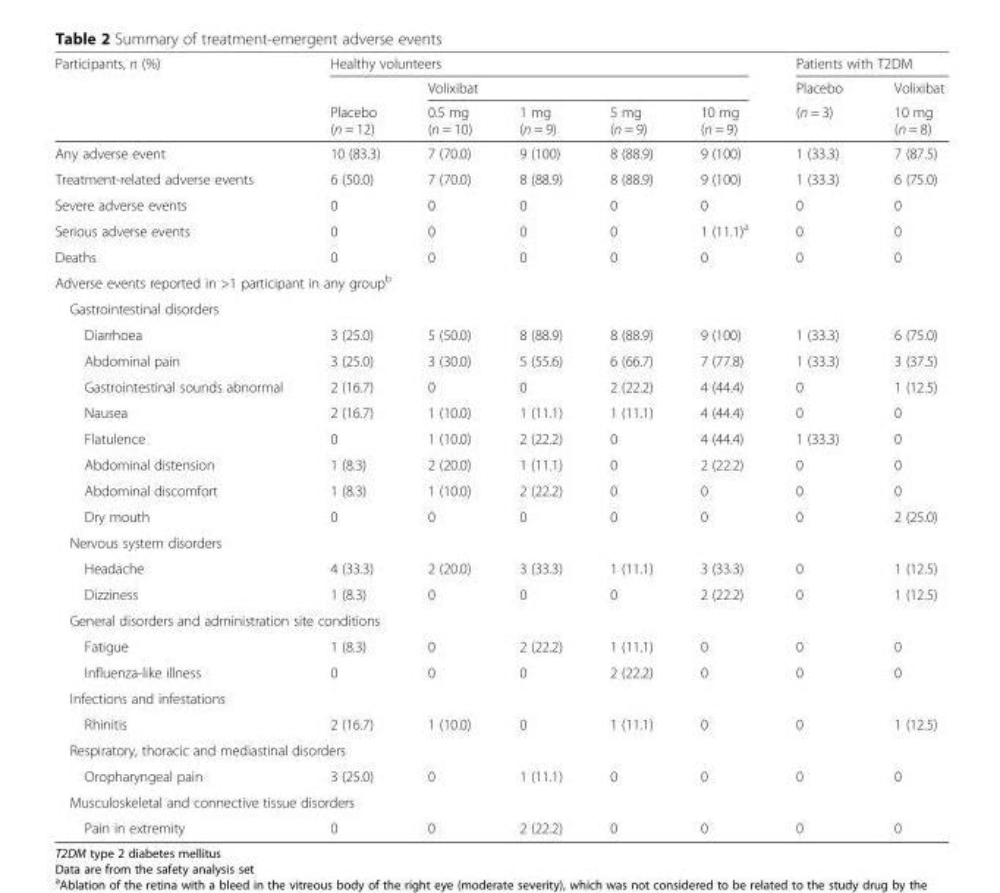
<table><thead><tr><td rowspan="3">Participants, n (%)</td><td colspan="5">Healthy volunteers</td><td colspan="2">Patients with T2DM</td></tr><tr><td rowspan="2">Placebo (n = 12)</td><td colspan="4">Volixibat</td><td rowspan="2">Placebo (n = 3)</td><td rowspan="2">Volixibat 10 mg (n = 8)</td></tr><tr><td>0.5 mg (n = 10)</td><td>1 mg (n = 9)</td><td>5 mg (n = 9)</td><td>10 mg (n = 9)</td></tr></thead><tbody><tr><td>Any adverse event</td><td>10 (83.3)</td><td>7 (70.0)</td><td>9 (100)</td><td>8 (88.9)</td><td>9 (100)</td><td>1 (33.3)</td><td>7 (87.5)</td></tr><tr><td>Treatment-related adverse events</td><td>6 (50.0)</td><td>7 (70.0)</td><td>8 (88.9)</td><td>8 (88.9)</td><td>9 (100)</td><td>1 (33.3)</td><td>6 (75.0)</td></tr><tr><td>Severe adverse events</td><td>0</td><td>0</td><td>0</td><td>0</td><td>0</td><td>0</td><td>0</td></tr><tr><td>Serious adverse events</td><td>0</td><td>0</td><td>0</td><td>0</td><td>1 (11.1)<sup>a</sup></td><td>0</td><td>0</td></tr><tr><td>Deaths</td><td>0</td><td>0</td><td>0</td><td>0</td><td>0</td><td>0</td><td>0</td></tr><tr><td colspan="8">Adverse events reported in &gt;1 participant in any group<sup>b</sup></td></tr><tr><td colspan="8">Gastrointestinal disorders</td></tr><tr><td>Diarrhoea</td><td>3 (25.0)</td><td>5 (50.0)</td><td>8 (88.9)</td><td>8 (88.9)</td><td>9 (100)</td><td>1 (33.3)</td><td>6 (75.0)</td></tr><tr><td>Abdominal pain</td><td>3 (25.0)</td><td>3 (30.0)</td><td>5 (55.6)</td><td>6 (66.7)</td><td>7 (77.8)</td><td>1 (33.3)</td><td>3 (37.5)</td></tr><tr><td>Gastrointestinal sounds abnormal</td><td>2 (16.7)</td><td>0</td><td>0</td><td>2 (22.2)</td><td>4 (44.4)</td><td>0</td><td>1 (12.5)</td></tr><tr><td>Nausea</td><td>2 (16.7)</td><td>1 (10.0)</td><td>1 (11.1)</td><td>1 (11.1)</td><td>4 (44.4)</td><td>0</td><td>0</td></tr><tr><td>Flatulence</td><td>0</td><td>1 (10.0)</td><td>2 (22.2)</td><td>0</td><td>4 (44.4)</td><td>1 (33.3)</td><td>0</td></tr><tr><td>Abdominal distension</td><td>1 (8.3)</td><td>2 (20.0)</td><td>1 (11.1)</td><td>0</td><td>2 (22.2)</td><td>0</td><td>0</td></tr><tr><td>Abdominal discomfort</td><td>1 (8.3)</td><td>1 (10.0)</td><td>2 (22.2)</td><td>0</td><td>0</td><td>0</td><td>0</td></tr><tr><td>Dry mouth</td><td>0</td><td>0</td><td>0</td><td>0</td><td>0</td><td>0</td><td>2 (25.0)</td></tr><tr><td colspan="8">Nervous system disorders</td></tr><tr><td>Headache</td><td>4 (33.3)</td><td>2 (20.0)</td><td>3 (33.3)</td><td>1 (11.1)</td><td>3 (33.3)</td><td>0</td><td>1 (12.5)</td></tr><tr><td>Dizziness</td><td>1 (8.3)</td><td>0</td><td>0</td><td>0</td><td>2 (22.2)</td><td>0</td><td>1 (12.5)</td></tr><tr><td colspan="8">General disorders and administration site conditions</td></tr><tr><td>Fatigue</td><td>1 (8.3)</td><td>0</td><td>2 (22.2)</td><td>1 (11.1)</td><td>0</td><td>0</td><td>0</td></tr><tr><td>Influenza-like illness</td><td>0</td><td>0</td><td>0</td><td>2 (22.2)</td><td>0</td><td>0</td><td>0</td></tr><tr><td colspan="8">Infections and infestations</td></tr><tr><td>Rhinitis</td><td>2 (16.7)</td><td>1 (10.0)</td><td>0</td><td>1 (11.1)</td><td>0</td><td>0</td><td>1 (12.5)</td></tr><tr><td colspan="8">Respiratory, thoracic and mediastinal disorders</td></tr><tr><td>Oropharyngeal pain</td><td>3 (25.0)</td><td>0</td><td>1 (11.1)</td><td>0</td><td>0</td><td>0</td><td>0</td></tr><tr><td colspan="8">Musculoskeletal and connective tissue disorders</td></tr><tr><td>Pain in extremity</td><td>0</td><td>0</td><td>2 (22.2)</td><td>0</td><td>0</td><td>0</td><td>0</td></tr></tbody></table>